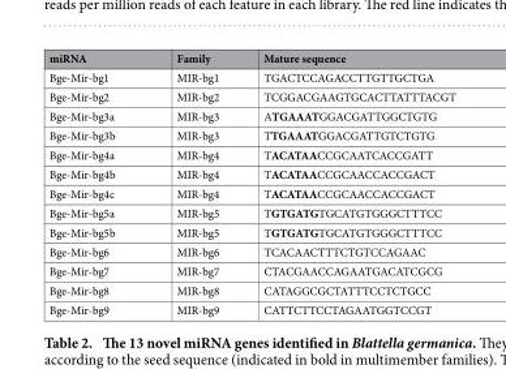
<table><thead><tr><td>miRNA</td><td>Family</td><td>Mature sequence</td></tr></thead><tbody><tr><td>Bge-Mir-bg1</td><td>MIR-bg1</td><td>TGACTCCAGACCTTGTTGCTGA</td></tr><tr><td>Bge-Mir-bg2</td><td>MIR-bg2</td><td>TCGGACGAAGTGCACTTATTTACGT</td></tr><tr><td>Bge-Mir-bg3a</td><td>MIR-bg3</td><td>ATGAAATGGACGATTGGCTGTG</td></tr><tr><td>Bge-Mir-bg3b</td><td>MIR-bg3</td><td>TTGAAATGGACGATTGTCTGTG</td></tr><tr><td>Bge-Mir-bg4a</td><td>MIR-bg4</td><td>TACATAACCGCAATCACCGATT</td></tr><tr><td>Bge-Mir-bg4b</td><td>MIR-bg4</td><td>TACATAACCGCAACCACCGACT</td></tr><tr><td>Bge-Mir-bg4c</td><td>MIR-bg4</td><td>TACATAACCGCAACCACCGACT</td></tr><tr><td>Bge-Mir-bg5a</td><td>MIR-bg5</td><td>TGTGATGTGCATGTGGGCTTTCC</td></tr><tr><td>Bge-Mir-bg5b</td><td>MIR-bg5</td><td>TGTGATGTGCATGTGGGCTTTCC</td></tr><tr><td>Bge-Mir-bg6</td><td>MIR-bg6</td><td>TCACAACTTTCTGTCCAGAAC</td></tr><tr><td>Bge-Mir-bg7</td><td>MIR-bg7</td><td>CTACGAACCAGAATGACATCGCG</td></tr><tr><td>Bge-Mir-bg8</td><td>MIR-bg8</td><td>CATAGGCGCTATTTCCTCTGCC</td></tr><tr><td>Bge-Mir-bg9</td><td>MIR-bg9</td><td>CATTCTTCCTAGAATGGTCCGT</td></tr></tbody></table>